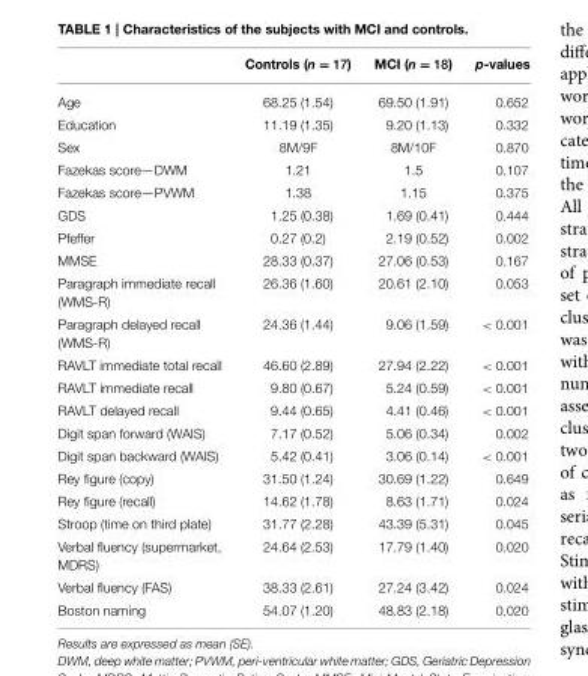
<table><thead><tr><td></td><td>Controls (n = 17)</td><td>MCI (n = 18)</td><td>p-values</td></tr></thead><tbody><tr><td>Age</td><td>68.25 (1.54)</td><td>69.50 (1.91)</td><td>0.652</td></tr><tr><td>Education</td><td>11.19 (1.35)</td><td>9.20 (1.13)</td><td>0.332</td></tr><tr><td>Sex</td><td>8M/9F</td><td>8M/10F</td><td>0.870</td></tr><tr><td>Fazekas score—DWM</td><td>1.21</td><td>1.5</td><td>0.107</td></tr><tr><td>Fazekas score—PVWM</td><td>1.38</td><td>1.15</td><td>0.375</td></tr><tr><td>GDS</td><td>1.25 (0.38)</td><td>1.69 (0.41)</td><td>0.444</td></tr><tr><td>Pfeffer</td><td>0.27 (0.2)</td><td>2.19 (0.52)</td><td>0.002</td></tr><tr><td>MMSE</td><td>28.33 (0.37)</td><td>27.06 (0.53)</td><td>0.167</td></tr><tr><td>Paragraph immediate recall (WMS-R)</td><td>26.36 (1.60)</td><td>20.61 (2.10)</td><td>0.053</td></tr><tr><td>Paragraph delayed recall (WMS-R)</td><td>24.36 (1.44)</td><td>9.06 (1.59)</td><td>&lt; 0.001</td></tr><tr><td>RAVLT immediate total recall</td><td>46.60 (2.89)</td><td>27.94 (2.22)</td><td>&lt; 0.001</td></tr><tr><td>RAVLT immediate recall</td><td>9.80 (0.67)</td><td>5.24 (0.59)</td><td>&lt; 0.001</td></tr><tr><td>RAVLT delayed recall</td><td>9.44 (0.65)</td><td>4.41 (0.46)</td><td>&lt; 0.001</td></tr><tr><td>Digit span forward (WAIS)</td><td>7.17 (0.52)</td><td>5.06 (0.34)</td><td>0.002</td></tr><tr><td>Digit span backward (WAIS)</td><td>5.42 (0.41)</td><td>3.06 (0.14)</td><td>&lt; 0.001</td></tr><tr><td>Rey figure (copy)</td><td>31.50 (1.24)</td><td>30.69 (1.22)</td><td>0.649</td></tr><tr><td>Rey figure (recall)</td><td>14.62 (1.78)</td><td>8.63 (1.71)</td><td>0.024</td></tr><tr><td>Stroop (time on third plate)</td><td>31.77 (2.28)</td><td>43.39 (5.31)</td><td>0.045</td></tr><tr><td>Verbal fluency (supermarket, MDRS)</td><td>24.64 (2.53)</td><td>17.79 (1.40)</td><td>0.020</td></tr><tr><td>Verbal fluency (FAS)</td><td>38.33 (2.61)</td><td>27.24 (3.42)</td><td>0.024</td></tr><tr><td>Boston naming</td><td>54.07 (1.20)</td><td>48.83 (2.18)</td><td>0.020</td></tr></tbody></table>